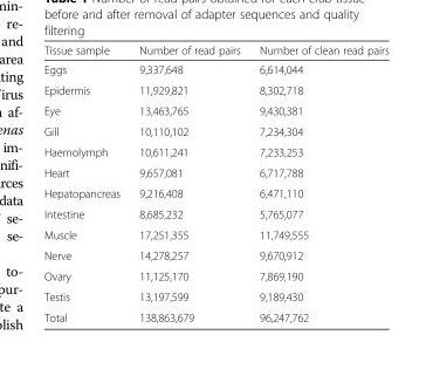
<table><thead><tr><td>Tissue sample</td><td>Number of read pairs</td><td>Number of clean read pairs</td></tr></thead><tbody><tr><td>Eggs</td><td>9,337,648</td><td>6,614,044</td></tr><tr><td>Epidermis</td><td>11,929,821</td><td>8,302,718</td></tr><tr><td>Eye</td><td>13,463,765</td><td>9,430,381</td></tr><tr><td>Gill</td><td>10,110,102</td><td>7,234,304</td></tr><tr><td>Haemolymph</td><td>10,611,241</td><td>7,233,253</td></tr><tr><td>Heart</td><td>9,657,081</td><td>6,717,788</td></tr><tr><td>Hepatopancreas</td><td>9,216,408</td><td>6,471,110</td></tr><tr><td>Intestine</td><td>8,685,232</td><td>5,765,077</td></tr><tr><td>Muscle</td><td>17,251,355</td><td>11,749,555</td></tr><tr><td>Nerve</td><td>14,278,257</td><td>9,670,912</td></tr><tr><td>Ovary</td><td>11,125,170</td><td>7,869,190</td></tr><tr><td>Testis</td><td>13,197,599</td><td>9,189,430</td></tr><tr><td>Total</td><td>138,863,679</td><td>96,247,762</td></tr></tbody></table>